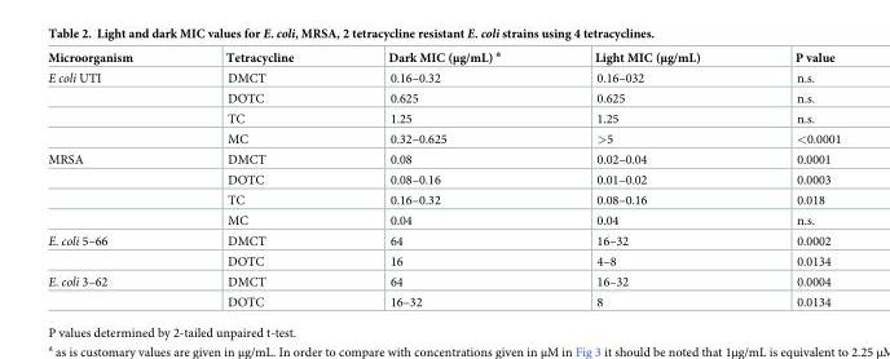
<table><thead><tr><td>Microorganism</td><td>Tetracycline</td><td>Dark MIC (μg/mL) <sup>a</sup></td><td>Light MIC (μg/mL)</td><td>P value</td></tr></thead><tbody><tr><td rowspan="4">E coli UTI</td><td>DMCT</td><td>0.16–0.32</td><td>0.16–032</td><td>n.s.</td></tr><tr><td>DOTC</td><td>0.625</td><td>0.625</td><td>n.s.</td></tr><tr><td>TC</td><td>1.25</td><td>1.25</td><td>n.s.</td></tr><tr><td>MC</td><td>0.32–0.625</td><td>&gt;5</td><td>&lt;0.0001</td></tr><tr><td rowspan="4">MRSA</td><td>DMCT</td><td>0.08</td><td>0.02–0.04</td><td>0.0001</td></tr><tr><td>DOTC</td><td>0.08–0.16</td><td>0.01–0.02</td><td>0.0003</td></tr><tr><td>TC</td><td>0.16–0.32</td><td>0.08–0.16</td><td>0.018</td></tr><tr><td>MC</td><td>0.04</td><td>0.04</td><td>n.s.</td></tr><tr><td rowspan="2">E. coli 5–66</td><td>DMCT</td><td>64</td><td>16–32</td><td>0.0002</td></tr><tr><td>DOTC</td><td>16</td><td>4–8</td><td>0.0134</td></tr><tr><td rowspan="2">E. coli 3–62</td><td>DMCT</td><td>64</td><td>16–32</td><td>0.0004</td></tr><tr><td>DOTC</td><td>16–32</td><td>8</td><td>0.0134</td></tr></tbody></table>